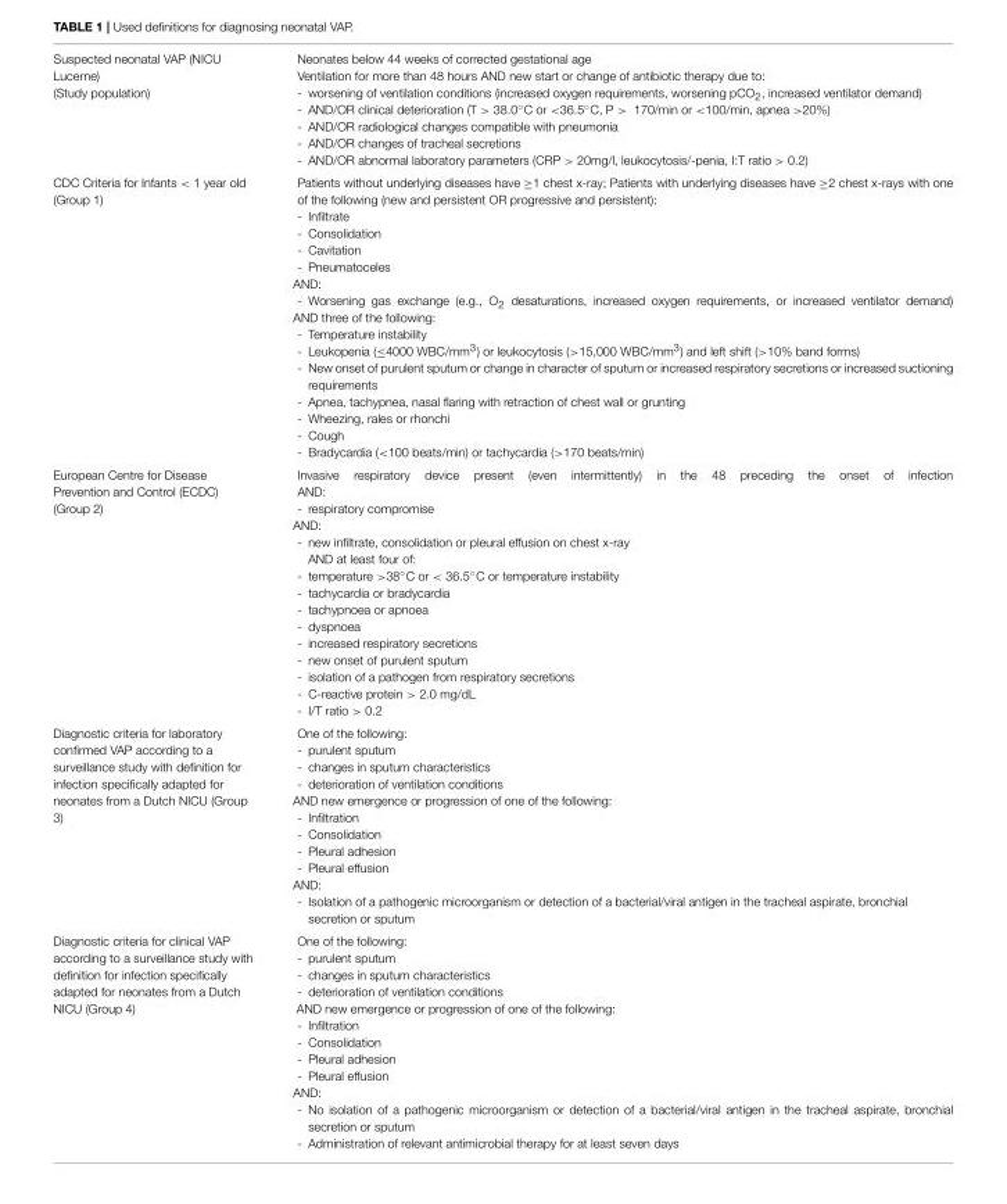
<table><tbody><tr><td>Suspected neonatal VAP (NICU Lucerne) (Study population)</td><td>Neonates below 44 weeks of corrected gestational age Ventilation for more than 48 hours AND new start or change of antibiotic therapy due to: - worsening of ventilation conditions (increased oxygen requirements, worsening pCO2, increased ventilator demand) - AND/OR clinical deterioration (T &gt; 38.0◦C or &lt;36.5◦C, P &gt; 170/min or &lt;100/min, apnea &gt;20%) - AND/OR radiological changes compatible with pneumonia - AND/OR changes of tracheal secretions - AND/OR abnormal laboratory parameters (CRP &gt; 20mg/l, leukocytosis/-penia, I:T ratio &gt; 0.2)</td></tr><tr><td>CDC Criteria for Infants &lt; 1 year old (Group 1)</td><td>Patients without underlying diseases have ≥1 chest x-ray; Patients with underlying diseases have ≥2 chest x-rays with one of the following (new and persistent OR progressive and persistent): - Infiltrate - Consolidation - Cavitation - Pneumatoceles AND: - Worsening gas exchange (e.g., O<sub>2</sub> desaturations, increased oxygen requirements, or increased ventilator demand) AND three of the following: - Temperature instability - Leukopenia (≤4000 WBC/mm<sup>3</sup>) or leukocytosis (&gt;15,000 WBC/mm<sup>3</sup>) and left shift (&gt;10% band forms) - New onset of purulent sputum or change in character of sputum or increased respiratory secretions or increased suctioning requirements - Apnea, tachypnea, nasal flaring with retraction of chest wall or grunting - Wheezing, rales or rhonchi - Cough - Bradycardia (&lt;100 beats/min) or tachycardia (&gt;170 beats/min)</td></tr><tr><td>European Centre for Disease Prevention and Control (ECDC) (Group 2)</td><td>Invasive respiratory device present (even intermittently) in the 48 preceding the onset of infection AND: - respiratory compromise AND: - new infiltrate, consolidation or pleural effusion on chest x-ray AND at least four of: - temperature &gt;38◦C or &lt; 36.5◦C or temperature instability - tachycardia or bradycardia - tachypnoea or apnoea - dyspnoea - increased respiratory secretions - new onset of purulent sputum - isolation of a pathogen from respiratory secretions - C-reactive protein &gt; 2.0 mg/dL - I/T ratio &gt; 0.2</td></tr><tr><td>Diagnostic criteria for laboratory confirmed VAP according to a surveillance study with definition for infection specifically adapted for neonates from a Dutch NICU (Group 3)</td><td>One of the following: - purulent sputum - changes in sputum characteristics - deterioration of ventilation conditions AND new emergence or progression of one of the following: - Infiltration - Consolidation - Pleural adhesion - Pleural effusion AND: - Isolation of a pathogenic microorganism or detection of a bacterial/viral antigen in the tracheal aspirate, bronchial secretion or sputum</td></tr><tr><td>Diagnostic criteria for clinical VAP according to a surveillance study with definition for infection specifically adapted for neonates from a Dutch NICU (Group 4)</td><td>One of the following: - purulent sputum - changes in sputum characteristics - deterioration of ventilation conditions AND new emergence or progression of one of the following: - Infiltration - Consolidation - Pleural adhesion - Pleural effusion AND: - No isolation of a pathogenic microorganism or detection of a bacterial/viral antigen in the tracheal aspirate, bronchial secretion or sputum - Administration of relevant antimicrobial therapy for at least seven days</td></tr></tbody></table>